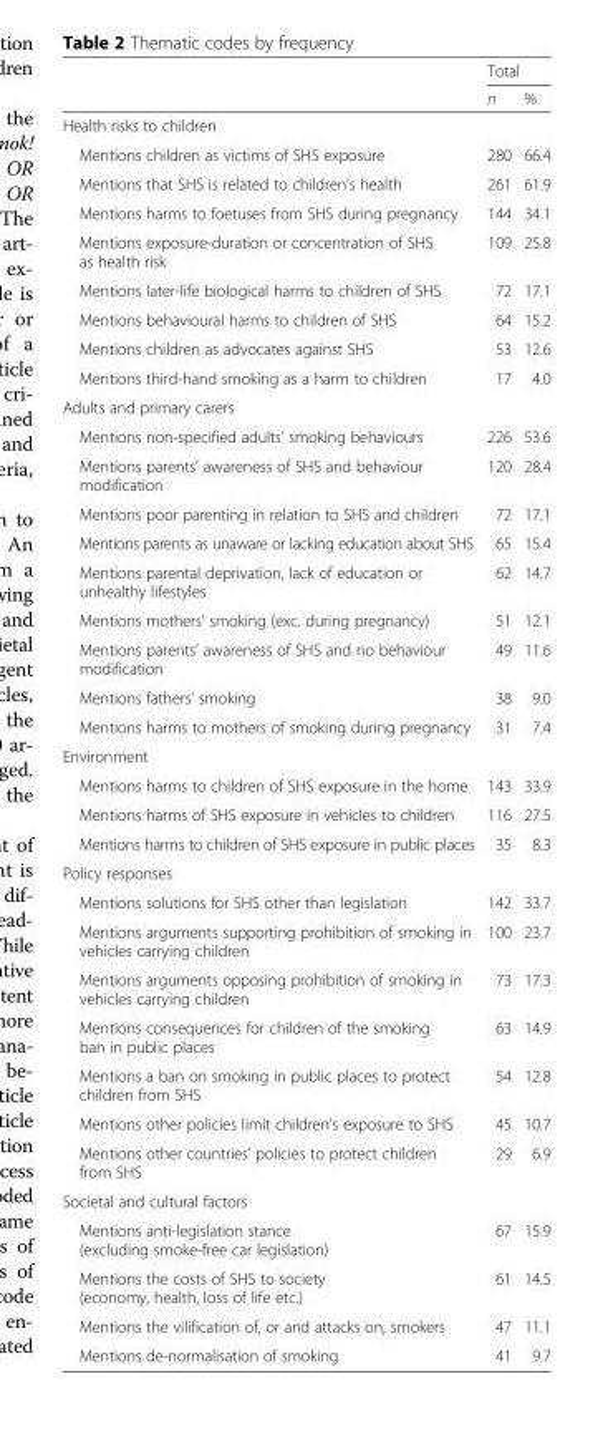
<table><thead><tr><td rowspan="2"></td><td colspan="2">Total</td></tr><tr><td>n</td><td>%</td></tr></thead><tbody><tr><td colspan="3">Health risks to children</td></tr><tr><td>Mentions children as victims of SHS exposure</td><td>280</td><td>66.4</td></tr><tr><td>Mentions that SHS is related to children’s health</td><td>261</td><td>61.9</td></tr><tr><td>Mentions harms to foetuses from SHS during pregnancy</td><td>144</td><td>34.1</td></tr><tr><td>Mentions exposure-duration or concentration of SHS as health risk</td><td>109</td><td>25.8</td></tr><tr><td>Mentions later-life biological harms to children of SHS</td><td>72</td><td>17.1</td></tr><tr><td>Mentions behavioural harms to children of SHS</td><td>64</td><td>15.2</td></tr><tr><td>Mentions children as advocates against SHS</td><td>53</td><td>12.6</td></tr><tr><td>Mentions third-hand smoking as a harm to children</td><td>17</td><td>4.0</td></tr><tr><td colspan="3">Adults and primary carers</td></tr><tr><td>Mentions non-specified adults’ smoking behaviours</td><td>226</td><td>53.6</td></tr><tr><td>Mentions parents’ awareness of SHS and behaviour modification</td><td>120</td><td>28.4</td></tr><tr><td>Mentions poor parenting in relation to SHS and children</td><td>72</td><td>17.1</td></tr><tr><td>Mentions parents as unaware or lacking education about SHS</td><td>65</td><td>15.4</td></tr><tr><td>Mentions parental deprivation, lack of education or unhealthy lifestyles</td><td>62</td><td>14.7</td></tr><tr><td>Mentions mothers’ smoking (exc. during pregnancy)</td><td>51</td><td>12.1</td></tr><tr><td>Mentions parents’ awareness of SHS and no behaviour modification</td><td>49</td><td>11.6</td></tr><tr><td>Mentions fathers’ smoking</td><td>38</td><td>9.0</td></tr><tr><td>Mentions harms to mothers of smoking during pregnancy</td><td>31</td><td>7.4</td></tr><tr><td colspan="3">Environment</td></tr><tr><td>Mentions harms to children of SHS exposure in the home</td><td>143</td><td>33.9</td></tr><tr><td>Mentions harms of SHS exposure in vehicles to children</td><td>116</td><td>27.5</td></tr><tr><td>Mentions harms to children of SHS exposure in public places</td><td>35</td><td>8.3</td></tr><tr><td colspan="3">Policy responses</td></tr><tr><td>Mentions solutions for SHS other than legislation</td><td>142</td><td>33.7</td></tr><tr><td>Mentions arguments supporting prohibition of smoking in vehicles carrying children</td><td>100</td><td>23.7</td></tr><tr><td>Mentions arguments opposing prohibition of smoking in vehicles carrying children</td><td>73</td><td>17.3</td></tr><tr><td>Mentions consequences for children of the smoking ban in public places</td><td>63</td><td>14.9</td></tr><tr><td>Mentions a ban on smoking in public places to protect children from SHS</td><td>54</td><td>12.8</td></tr><tr><td>Mentions other policies limit children’s exposure to SHS</td><td>45</td><td>10.7</td></tr><tr><td>Mentions other countries’ policies to protect children from SHS</td><td>29</td><td>6.9</td></tr><tr><td colspan="3">Societal and cultural factors</td></tr><tr><td>Mentions anti-legislation stance (excluding smoke-free car legislation)</td><td>67</td><td>15.9</td></tr><tr><td>Mentions the costs of SHS to society (economy, health, loss of life etc.)</td><td>61</td><td>14.5</td></tr><tr><td>Mentions the vilification of, or and attacks on, smokers</td><td>47</td><td>11.1</td></tr><tr><td>Mentions de-normalisation of smoking</td><td>41</td><td>9.7</td></tr></tbody></table>